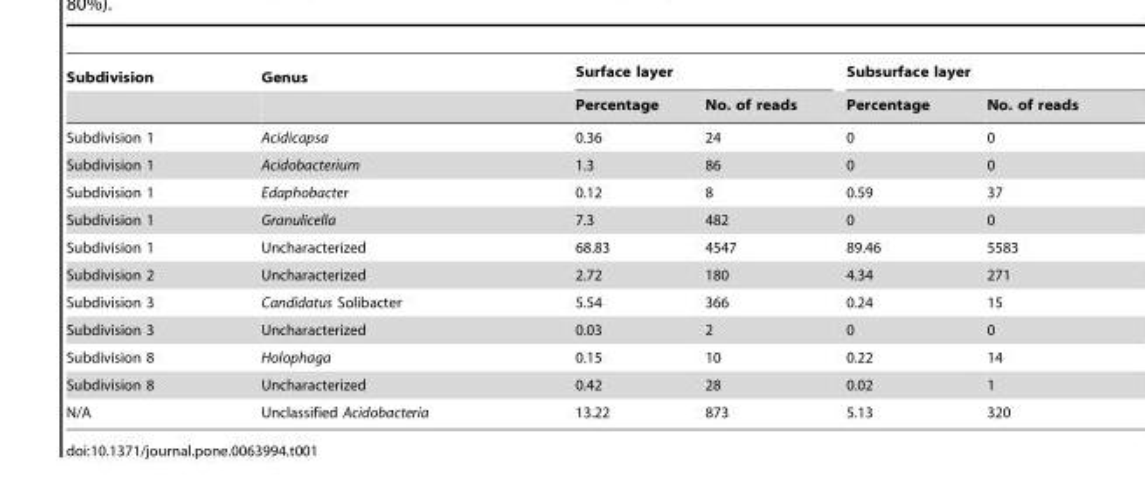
<table><thead><tr><td rowspan="2">Subdivision</td><td rowspan="2">Genus</td><td colspan="2">Surface layer</td><td colspan="2">Subsurface layer</td></tr><tr><td>Percentage</td><td>No. of reads</td><td>Percentage</td><td>No. of reads</td></tr></thead><tbody><tr><td>Subdivision 1</td><td>Acidicapsa</td><td>0.36</td><td>24</td><td>0</td><td>0</td></tr><tr><td>Subdivision 1</td><td>Acidobacterium</td><td>1.3</td><td>86</td><td>0</td><td>0</td></tr><tr><td>Subdivision 1</td><td>Edaphobacter</td><td>0.12</td><td>8</td><td>0.59</td><td>37</td></tr><tr><td>Subdivision 1</td><td>Granulicella</td><td>7.3</td><td>482</td><td>0</td><td>0</td></tr><tr><td>Subdivision 1</td><td>Uncharacterized</td><td>68.83</td><td>4547</td><td>89.46</td><td>5583</td></tr><tr><td>Subdivision 2</td><td>Uncharacterized</td><td>2.72</td><td>180</td><td>4.34</td><td>271</td></tr><tr><td>Subdivision 3</td><td>Candidatus Solibacter</td><td>5.54</td><td>366</td><td>0.24</td><td>15</td></tr><tr><td>Subdivision 3</td><td>Uncharacterized</td><td>0.03</td><td>2</td><td>0</td><td>0</td></tr><tr><td>Subdivision 8</td><td>Holophaga</td><td>0.15</td><td>10</td><td>0.22</td><td>14</td></tr><tr><td>Subdivision 8</td><td>Uncharacterized</td><td>0.42</td><td>28</td><td>0.02</td><td>1</td></tr><tr><td>N/A</td><td>Unclassified Acidobacteria</td><td>13.22</td><td>873</td><td>5.13</td><td>320</td></tr></tbody></table>